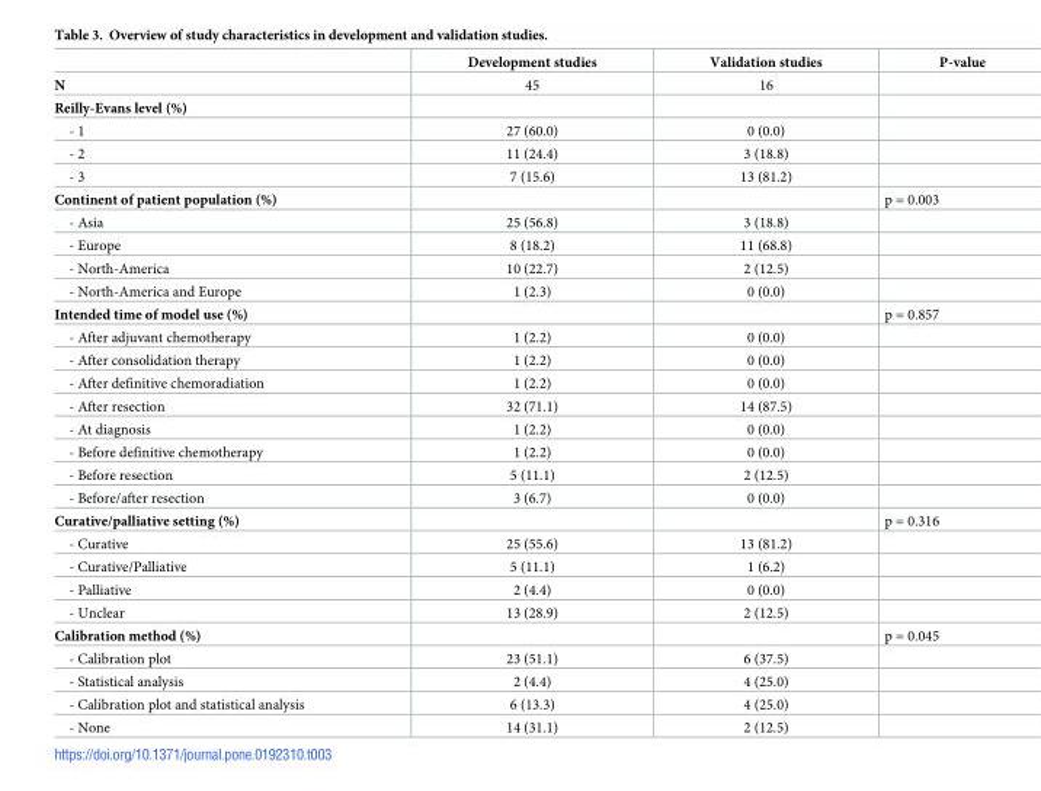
<table><thead><tr><td></td><td>Development studies</td><td>Validation studies</td><td>P-value</td></tr></thead><tbody><tr><td>N</td><td>45</td><td>16</td><td></td></tr><tr><td colspan="4">Reilly-Evans level (%)</td></tr><tr><td>- 1</td><td>27 (60.0)</td><td>0 (0.0)</td><td></td></tr><tr><td>- 2</td><td>11 (24.4)</td><td>3 (18.8)</td><td></td></tr><tr><td>- 3</td><td>7 (15.6)</td><td>13 (81.2)</td><td></td></tr><tr><td>Continent of patient population (%)</td><td></td><td></td><td>p = 0.003</td></tr><tr><td>- Asia</td><td>25 (56.8)</td><td>3 (18.8)</td><td></td></tr><tr><td>- Europe</td><td>8 (18.2)</td><td>11 (68.8)</td><td></td></tr><tr><td>- North-America</td><td>10 (22.7)</td><td>2 (12.5)</td><td></td></tr><tr><td>- North-America and Europe</td><td>1 (2.3)</td><td>0 (0.0)</td><td></td></tr><tr><td>Intended time of model use (%)</td><td></td><td></td><td>p = 0.857</td></tr><tr><td>- After adjuvant chemotherapy</td><td>1 (2.2)</td><td>0 (0.0)</td><td></td></tr><tr><td>- After consolidation therapy</td><td>1 (2.2)</td><td>0 (0.0)</td><td></td></tr><tr><td>- After definitive chemoradiation</td><td>1 (2.2)</td><td>0 (0.0)</td><td></td></tr><tr><td>- After resection</td><td>32 (71.1)</td><td>14 (87.5)</td><td></td></tr><tr><td>- At diagnosis</td><td>1 (2.2)</td><td>0 (0.0)</td><td></td></tr><tr><td>- Before definitive chemotherapy</td><td>1 (2.2)</td><td>0 (0.0)</td><td></td></tr><tr><td>- Before resection</td><td>5 (11.1)</td><td>2 (12.5)</td><td></td></tr><tr><td>- Before/after resection</td><td>3 (6.7)</td><td>0 (0.0)</td><td></td></tr><tr><td>Curative/palliative setting (%)</td><td></td><td></td><td>p = 0.316</td></tr><tr><td>- Curative</td><td>25 (55.6)</td><td>13 (81.2)</td><td></td></tr><tr><td>- Curative/Palliative</td><td>5 (11.1)</td><td>1 (6.2)</td><td></td></tr><tr><td>- Palliative</td><td>2 (4.4)</td><td>0 (0.0)</td><td></td></tr><tr><td>- Unclear</td><td>13 (28.9)</td><td>2 (12.5)</td><td></td></tr><tr><td>Calibration method (%)</td><td></td><td></td><td>p = 0.045</td></tr><tr><td>- Calibration plot</td><td>23 (51.1)</td><td>6 (37.5)</td><td></td></tr><tr><td>- Statistical analysis</td><td>2 (4.4)</td><td>4 (25.0)</td><td></td></tr><tr><td>- Calibration plot and statistical analysis</td><td>6 (13.3)</td><td>4 (25.0)</td><td></td></tr><tr><td>- None</td><td>14 (31.1)</td><td>2 (12.5)</td><td></td></tr></tbody></table>